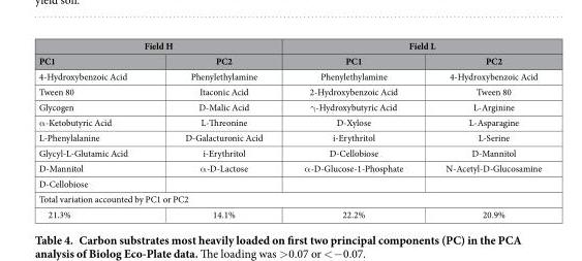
<table><thead><tr><td colspan="2">Field H</td><td colspan="2">Field L</td></tr><tr><td>PC1</td><td>PC2</td><td>PC1</td><td>PC2</td></tr></thead><tbody><tr><td>4-Hydroxybenzoic Acid</td><td>Phenylethylamine</td><td>Phenylethylamine</td><td>4-Hydroxybenzoic Acid</td></tr><tr><td>Tween 80</td><td>Itaconic Acid</td><td>2-Hydroxybenzoic Acid</td><td>Tween 80</td></tr><tr><td>Glycogen</td><td>D-Malic Acid</td><td>γ -Hydroxybutyric Acid</td><td>L-Arginine</td></tr><tr><td>α -Ketobutyric Acid</td><td>L-Threonine</td><td>D-Xylose</td><td>L-Asparagine</td></tr><tr><td>L-Phenylalanine</td><td>D-Galacturonic Acid</td><td>i-Erythritol</td><td>L-Serine</td></tr><tr><td>Glycyl-L-Glutamic Acid</td><td>i-Erythritol</td><td>D-Cellobiose</td><td>D-Mannitol</td></tr><tr><td>D-Mannitol</td><td>α -D-Lactose</td><td>α -D-Glucose-1-Phosphate</td><td>N-Acetyl-D-Glucosamine</td></tr><tr><td colspan="4">D-Cellobiose</td></tr><tr><td colspan="4">Total variation accounted by PC1 or PC2</td></tr><tr><td>21.3%</td><td>14.1%</td><td>22.2%</td><td>20.9%</td></tr></tbody></table>